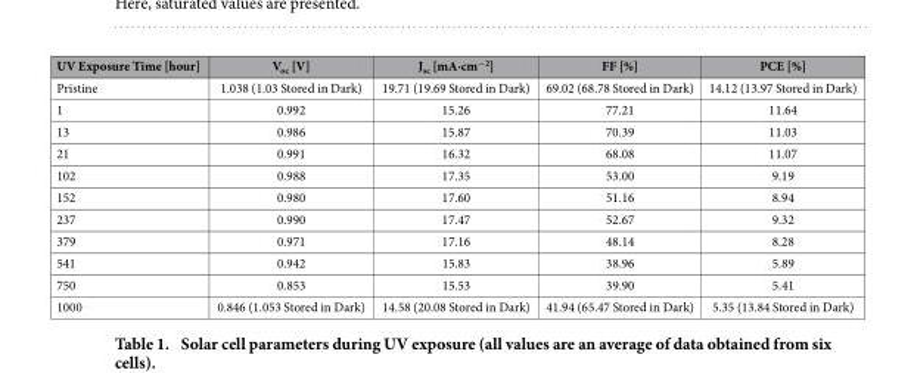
<table><thead><tr><td>UV Exposure Time [hour]</td><td>V<sub>oc</sub> [V]</td><td>J<sub>sc</sub> [mA∙cm<sup>−2</sup>]</td><td>FF [%]</td><td>PCE [%]</td></tr></thead><tbody><tr><td>Pristine</td><td>1.038 (1.03 Stored in Dark)</td><td>19.71 (19.69 Stored in Dark)</td><td>69.02 (68.78 Stored in Dark)</td><td>14.12 (13.97 Stored in Dark)</td></tr><tr><td>1</td><td>0.992</td><td>15.26</td><td>77.21</td><td>11.64</td></tr><tr><td>13</td><td>0.986</td><td>15.87</td><td>70.39</td><td>11.03</td></tr><tr><td>21</td><td>0.991</td><td>16.32</td><td>68.08</td><td>11.07</td></tr><tr><td>102</td><td>0.988</td><td>17.35</td><td>53.00</td><td>9.19</td></tr><tr><td>152</td><td>0.980</td><td>17.60</td><td>51.16</td><td>8.94</td></tr><tr><td>237</td><td>0.990</td><td>17.47</td><td>52.67</td><td>9.32</td></tr><tr><td>379</td><td>0.971</td><td>17.16</td><td>48.14</td><td>8.28</td></tr><tr><td>541</td><td>0.942</td><td>15.83</td><td>38.96</td><td>5.89</td></tr><tr><td>750</td><td>0.853</td><td>15.53</td><td>39.90</td><td>5.41</td></tr><tr><td>1000</td><td>0.846 (1.053 Stored in Dark)</td><td>14.58 (20.08 Stored in Dark)</td><td>41.94 (65.47 Stored in Dark)</td><td>5.35 (13.84 Stored in Dark)</td></tr></tbody></table>